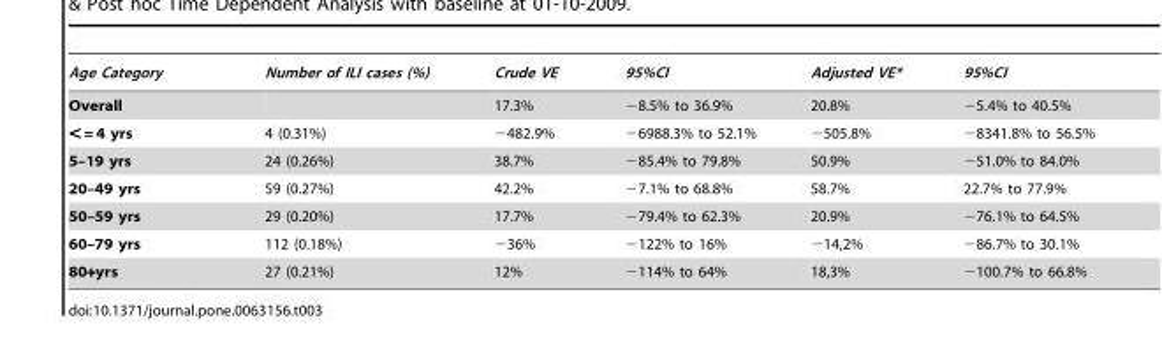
<table><thead><tr><td>Age Category</td><td>Number of ILI cases (%)</td><td>Crude VE</td><td>95%CI</td><td>Adjusted VE*</td><td>95%CI</td></tr></thead><tbody><tr><td>Overall</td><td></td><td>17.3%</td><td>−8.5% to 36.9%</td><td>20.8%</td><td>−5.4% to 40.5%</td></tr><tr><td>&lt; = 4 yrs</td><td>4 (0.31%)</td><td>−482.9%</td><td>−6988.3% to 52.1%</td><td>−505.8%</td><td>−8341.8% to 56.5%</td></tr><tr><td>5–19 yrs</td><td>24 (0.26%)</td><td>38.7%</td><td>−85.4% to 79.8%</td><td>50.9%</td><td>−51.0% to 84.0%</td></tr><tr><td>20–49 yrs</td><td>59 (0.27%)</td><td>42.2%</td><td>−7.1% to 68.8%</td><td>58.7%</td><td>22.7% to 77.9%</td></tr><tr><td>50–59 yrs</td><td>29 (0.20%)</td><td>17.7%</td><td>−79.4% to 62.3%</td><td>20.9%</td><td>−76.1% to 64.5%</td></tr><tr><td>60–79 yrs</td><td>112 (0.18%)</td><td>−36%</td><td>−122% to 16%</td><td>−14,2%</td><td>−86.7% to 30.1%</td></tr><tr><td>80+yrs</td><td>27 (0.21%)</td><td>12%</td><td>−114% to 64%</td><td>18,3%</td><td>−100.7% to 66.8%</td></tr></tbody></table>